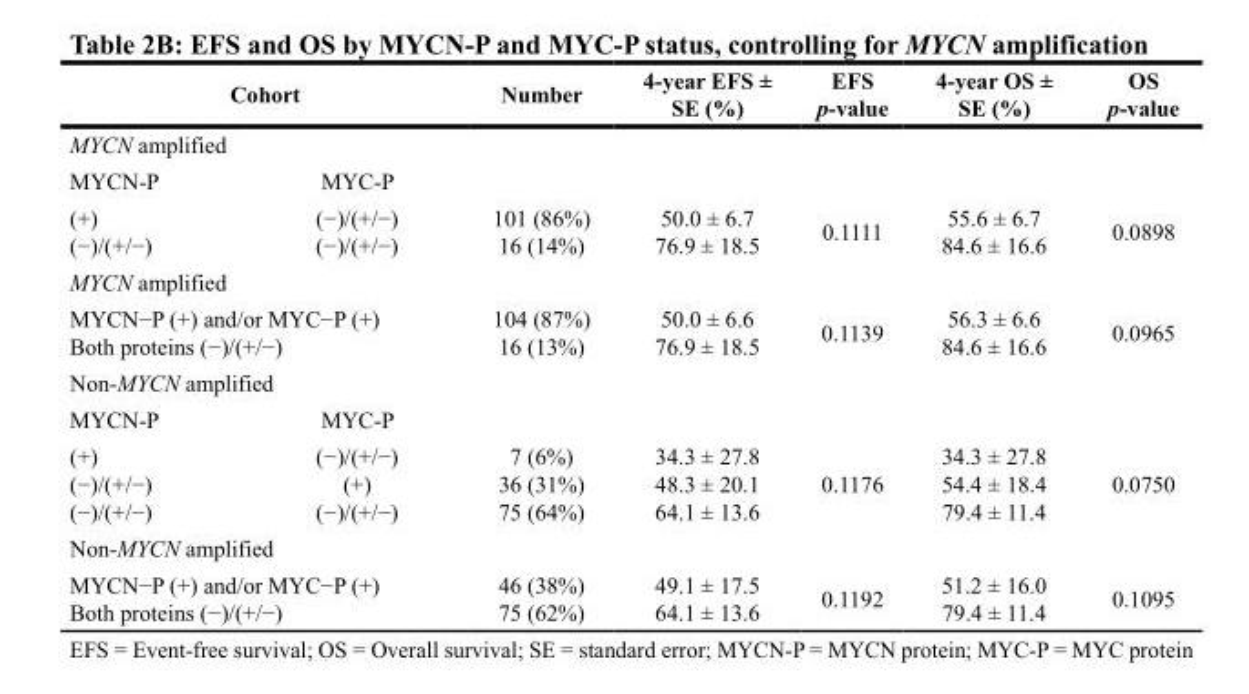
<table><thead><tr><td rowspan="2" colspan="2">Cohort MYCN amplified</td><td>Number</td><td>4-year EFS ± SE (%)</td><td>EFS p-value</td><td>4-year OS ± SE (%)</td><td>OS p-value</td></tr><tr><td rowspan="2" colspan="5"></td></tr><tr><td>MYCN-P</td><td>MYC-P</td></tr></thead><tbody><tr><td>(+) (−)/(+/−)</td><td>(−)/(+/−) (−)/(+/−)</td><td>101 (86%) 16 (14%)</td><td>50.0 ± 6.7 76.9 ± 18.5</td><td>0.1111</td><td>55.6 ± 6.7 84.6 ± 16.6</td><td>0.0898</td></tr><tr><td colspan="7">MYCN amplified</td></tr><tr><td colspan="2">MYCN−P (+) and/or MYC−P (+) Both proteins (−)/(+/−)</td><td>104 (87%) 16 (13%)</td><td>50.0 ± 6.6 76.9 ± 18.5</td><td>0.1139</td><td>56.3 ± 6.6 84.6 ± 16.6</td><td>0.0965</td></tr><tr><td colspan="2">Non-MYCN amplified</td><td rowspan="2" colspan="5"></td></tr><tr><td>MYCN-P</td><td>MYC-P</td></tr><tr><td>(+) (−)/(+/−) (−)/(+/−)</td><td>(−)/(+/−) (+) (−)/(+/−)</td><td>7 (6%) 36 (31%) 75 (64%)</td><td>34.3 ± 27.8 48.3 ± 20.1 64.1 ± 13.6</td><td>0.1176</td><td>34.3 ± 27.8 54.4 ± 18.4 79.4 ± 11.4</td><td>0.0750</td></tr><tr><td colspan="7">Non-MYCN amplified</td></tr><tr><td colspan="2">MYCN−P (+) and/or MYC−P (+) Both proteins (−)/(+/−)</td><td>46 (38%) 75 (62%)</td><td>49.1 ± 17.5 64.1 ± 13.6</td><td>0.1192</td><td>51.2 ± 16.0 79.4 ± 11.4</td><td>0.1095</td></tr></tbody></table>